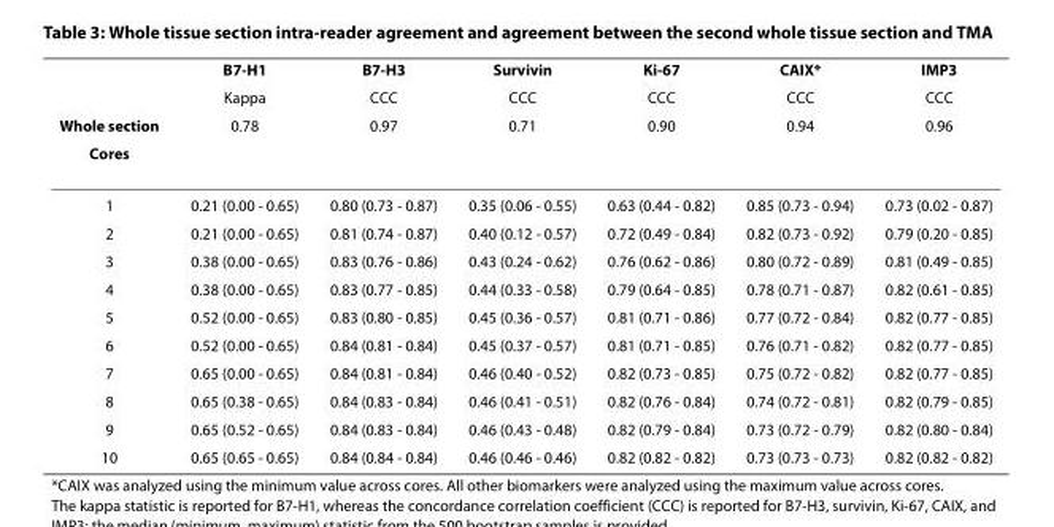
<table><thead><tr><td rowspan="4">Whole section Cores</td><td rowspan="4">B7-H1 Kappa 0.78</td><td rowspan="4">B7-H3 CCC 0.97</td><td rowspan="4">Survivin CCC 0.71</td><td rowspan="4">Ki-67 CCC 0.90</td><td rowspan="4">CAIX* CCC 0.94</td><td rowspan="4">IMP3 CCC 0.96</td></tr><tr></tr><tr></tr><tr></tr></thead><tbody><tr><td>1</td><td>0.21 (0.00 - 0.65)</td><td>0.80 (0.73 - 0.87)</td><td>0.35 (0.06 - 0.55)</td><td>0.63 (0.44 - 0.82)</td><td>0.85 (0.73 - 0.94)</td><td>0.73 (0.02 - 0.87)</td></tr><tr><td>2</td><td>0.21 (0.00 - 0.65)</td><td>0.81 (0.74 - 0.87)</td><td>0.40 (0.12 - 0.57)</td><td>0.72 (0.49 - 0.84)</td><td>0.82 (0.73 - 0.92)</td><td>0.79 (0.20 - 0.85)</td></tr><tr><td>3</td><td>0.38 (0.00 - 0.65)</td><td>0.83 (0.76 - 0.86)</td><td>0.43 (0.24 - 0.62)</td><td>0.76 (0.62 - 0.86)</td><td>0.80 (0.72 - 0.89)</td><td>0.81 (0.49 - 0.85)</td></tr><tr><td>4</td><td>0.38 (0.00 - 0.65)</td><td>0.83 (0.77 - 0.85)</td><td>0.44 (0.33 - 0.58)</td><td>0.79 (0.64 - 0.85)</td><td>0.78 (0.71 - 0.87)</td><td>0.82 (0.61 - 0.85)</td></tr><tr><td>5</td><td>0.52 (0.00 - 0.65)</td><td>0.83 (0.80 - 0.85)</td><td>0.45 (0.36 - 0.57)</td><td>0.81 (0.71 - 0.86)</td><td>0.77 (0.72 - 0.84)</td><td>0.82 (0.77 - 0.85)</td></tr><tr><td>6</td><td>0.52 (0.00 - 0.65)</td><td>0.84 (0.81 - 0.84)</td><td>0.45 (0.37 - 0.57)</td><td>0.81 (0.71 - 0.85)</td><td>0.76 (0.71 - 0.82)</td><td>0.82 (0.77 - 0.85)</td></tr><tr><td>7</td><td>0.65 (0.00 - 0.65)</td><td>0.84 (0.81 - 0.84)</td><td>0.46 (0.40 - 0.52)</td><td>0.82 (0.73 - 0.85)</td><td>0.75 (0.72 - 0.82)</td><td>0.82 (0.77 - 0.85)</td></tr><tr><td>8</td><td>0.65 (0.38 - 0.65)</td><td>0.84 (0.83 - 0.84)</td><td>0.46 (0.41 - 0.51)</td><td>0.82 (0.76 - 0.84)</td><td>0.74 (0.72 - 0.81)</td><td>0.82 (0.79 - 0.85)</td></tr><tr><td>9</td><td>0.65 (0.52 - 0.65)</td><td>0.84 (0.83 - 0.84)</td><td>0.46 (0.43 - 0.48)</td><td>0.82 (0.79 - 0.84)</td><td>0.73 (0.72 - 0.79)</td><td>0.82 (0.80 - 0.84)</td></tr><tr><td>10</td><td>0.65 (0.65 - 0.65)</td><td>0.84 (0.84 - 0.84)</td><td>0.46 (0.46 - 0.46)</td><td>0.82 (0.82 - 0.82)</td><td>0.73 (0.73 - 0.73)</td><td>0.82 (0.82 - 0.82)</td></tr></tbody></table>